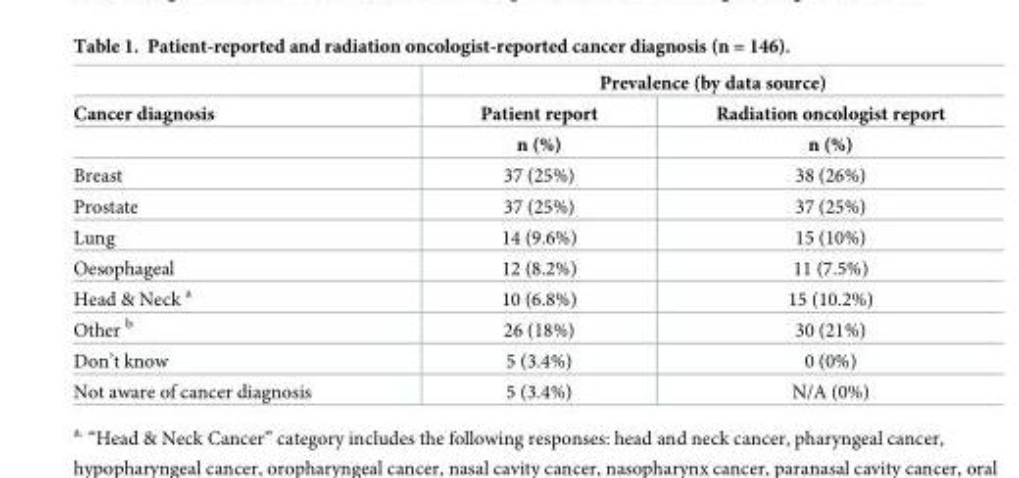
<table><thead><tr><td rowspan="3">Cancer diagnosis</td><td colspan="2">Prevalence (by data source)</td></tr><tr><td rowspan="2">Patient report n (%)</td><td rowspan="2">Radiation oncologist report n (%)</td></tr><tr></tr></thead><tbody><tr><td>Breast</td><td>37 (25%)</td><td>38 (26%)</td></tr><tr><td>Prostate</td><td>37 (25%)</td><td>37 (25%)</td></tr><tr><td>Lung</td><td>14 (9.6%)</td><td>15 (10%)</td></tr><tr><td>Oesophageal</td><td>12 (8.2%)</td><td>11 (7.5%)</td></tr><tr><td>Head &amp; Neck <sup>a</sup></td><td>10 (6.8%)</td><td>15 (10.2%)</td></tr><tr><td>Other <sup>b</sup></td><td>26 (18%)</td><td>30 (21%)</td></tr><tr><td>Don’t know</td><td>5 (3.4%)</td><td>0 (0%)</td></tr><tr><td>Not aware of cancer diagnosis</td><td>5 (3.4%)</td><td>N/A (0%)</td></tr></tbody></table>